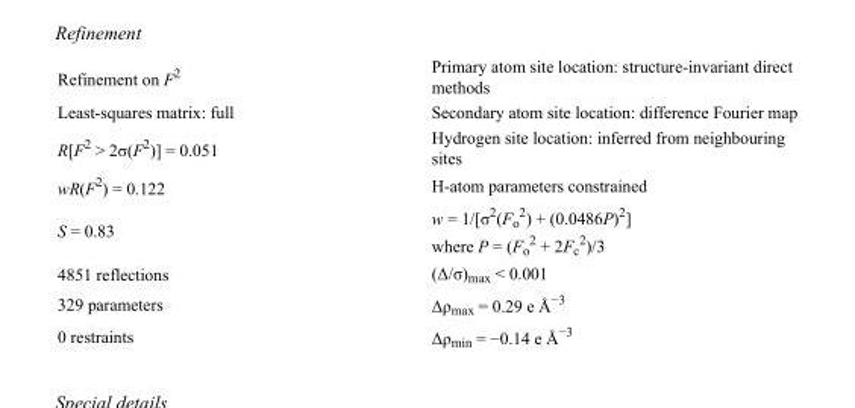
<table><tbody><tr><td>Refinement on F<sup>2</sup></td><td>Primary atom site location: structure-invariant direct methods</td></tr><tr><td>Least-squares matrix: full</td><td>Secondary atom site location: difference Fourier map</td></tr><tr><td>R[F<sup>2</sup> &gt; 2σ(F<sup>2</sup>)] = 0.051</td><td>Hydrogen site location: inferred from neighbouring sites</td></tr><tr><td>wR(F<sup>2</sup>) = 0.122</td><td>H-atom parameters constrained</td></tr><tr><td>S = 0.83</td><td>w = 1/[σ<sup>2</sup>(F<sub>o</sub> <sup>2</sup>) + (0.0486P)<sup>2</sup>] where P = (F<sub>o</sub> <sup>2</sup> + 2F<sub>c</sub> <sup>2</sup>)/3</td></tr><tr><td>4851 reflections</td><td>(Δ/σ)<sub>max</sub> &lt; 0.001</td></tr><tr><td>329 parameters</td><td>Δρ<sub>max</sub> = 0.29 e Å<sup>−3</sup></td></tr><tr><td>0 restraints</td><td>Δρ<sub>min</sub> = −0.14 e Å<sup>−3</sup></td></tr></tbody></table>